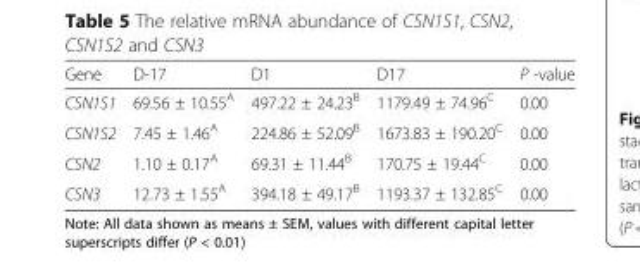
<table><thead><tr><td>Gene</td><td>D-17</td><td>D1</td><td>D17</td><td>P -value</td></tr></thead><tbody><tr><td>CSN1S1</td><td>69.56 ± 10.55<sup>A</sup></td><td>497.22 ± 24.23<sup>B</sup></td><td>1179.49 ± 74.96<sup>C</sup></td><td>0.00</td></tr><tr><td>CSN1S2</td><td>7.45 ± 1.46<sup>A</sup></td><td>224.86 ± 52.09<sup>B</sup></td><td>1673.83 ± 190.20<sup>C</sup></td><td>0.00</td></tr><tr><td>CSN2</td><td>1.10 ± 0.17<sup>A</sup></td><td>69.31 ± 11.44<sup>B</sup></td><td>170.75 ± 19.44<sup>C</sup></td><td>0.00</td></tr><tr><td>CSN3</td><td>12.73 ± 1.55<sup>A</sup></td><td>394.18 ± 49.17<sup>B</sup></td><td>1193.37 ± 132.85<sup>C</sup></td><td>0.00</td></tr></tbody></table>